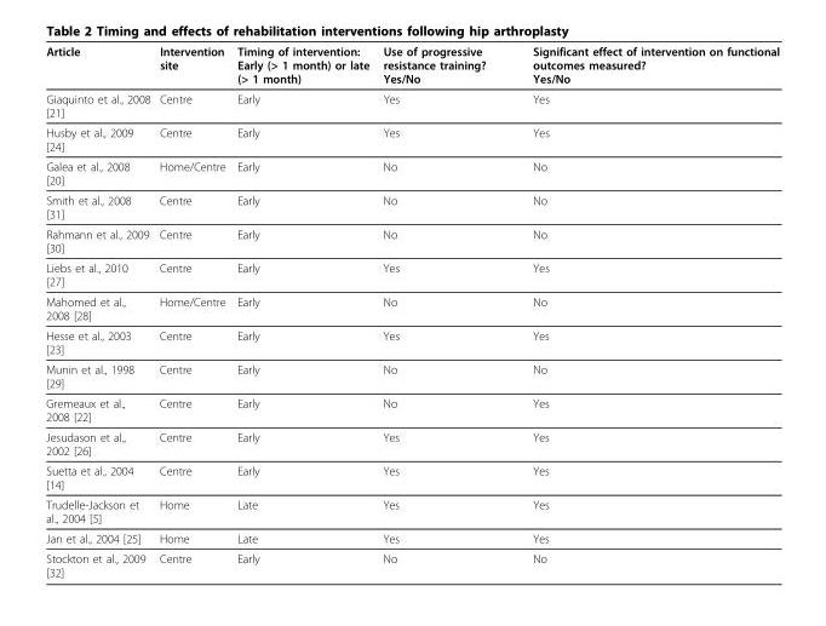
<table><thead><tr><td>Article</td><td>Intervention site</td><td>Timing of intervention: Early (&gt; 1 month) or late (&gt; 1 month)</td><td>Use of progressive resistance training? Yes/No</td><td>Significant effect of intervention on functional outcomes measured? Yes/No</td></tr></thead><tbody><tr><td>Giaquinto et al., 2008 [21]</td><td>Centre</td><td>Early</td><td>Yes</td><td>Yes</td></tr><tr><td>Husby et al., 2009 [24]</td><td>Centre</td><td>Early</td><td>Yes</td><td>Yes</td></tr><tr><td>Galea et al., 2008 [20]</td><td>Home/Centre</td><td>Early</td><td>No</td><td>No</td></tr><tr><td>Smith et al., 2008 [31]</td><td>Centre</td><td>Early</td><td>No</td><td>No</td></tr><tr><td>Rahmann et al., 2009 [30]</td><td>Centre</td><td>Early</td><td>No</td><td>No</td></tr><tr><td>Liebs et al., 2010 [27]</td><td>Centre</td><td>Early</td><td>Yes</td><td>Yes</td></tr><tr><td>Mahomed et al., 2008 [28]</td><td>Home/Centre</td><td>Early</td><td>No</td><td>No</td></tr><tr><td>Hesse et al., 2003 [23]</td><td>Centre</td><td>Early</td><td>Yes</td><td>Yes</td></tr><tr><td>Munin et al., 1998 [29]</td><td>Centre</td><td>Early</td><td>No</td><td>No</td></tr><tr><td>Gremeaux et al., 2008 [22]</td><td>Centre</td><td>Early</td><td>No</td><td>Yes</td></tr><tr><td>Jesudason et al., 2002 [26]</td><td>Centre</td><td>Early</td><td>Yes</td><td>Yes</td></tr><tr><td>Suetta et al., 2004 [14]</td><td>Centre</td><td>Early</td><td>Yes</td><td>Yes</td></tr><tr><td>Trudelle-Jackson et al., 2004 [5]</td><td>Home</td><td>Late</td><td>Yes</td><td>Yes</td></tr><tr><td>Jan et al., 2004 [25]</td><td>Home</td><td>Late</td><td>Yes</td><td>Yes</td></tr><tr><td>Stockton et al., 2009 [32]</td><td>Centre</td><td>Early</td><td>No</td><td>No</td></tr></tbody></table>